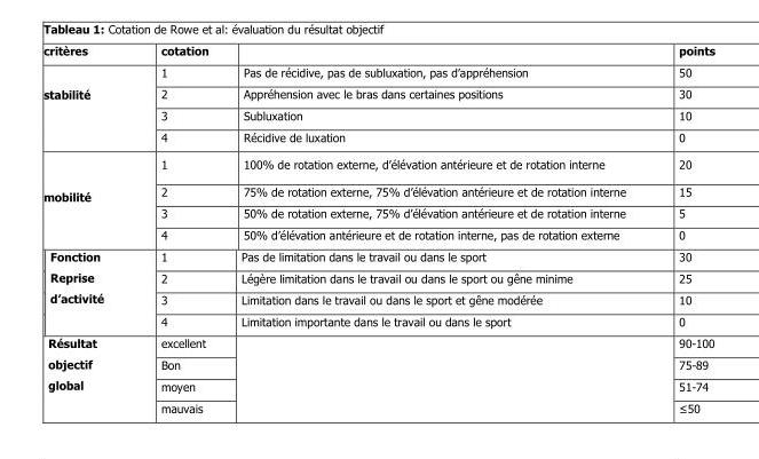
<table><thead><tr><td>critères</td><td>cotation</td><td></td><td>points</td></tr></thead><tbody><tr><td rowspan="4">stabilité</td><td>1</td><td>Pas de récidive, pas de subluxation, pas d’appréhension</td><td>50</td></tr><tr><td>2</td><td>Appréhension avec le bras dans certaines positions</td><td>30</td></tr><tr><td>3</td><td>Subluxation</td><td>10</td></tr><tr><td>4</td><td>Récidive de luxation</td><td>0</td></tr><tr><td rowspan="4">mobilité</td><td>1</td><td>100% de rotation externe, d’élévation antérieure et de rotation interne</td><td>20</td></tr><tr><td>2</td><td>75% de rotation externe, 75% d’élévation antérieure et de rotation interne</td><td>15</td></tr><tr><td>3</td><td>50% de rotation externe, 75% d’élévation antérieure et de rotation interne</td><td>5</td></tr><tr><td>4</td><td>50% d’élévation antérieure et de rotation interne, pas de rotation externe</td><td>0</td></tr><tr><td rowspan="4">Fonction Reprise d’activité</td><td>1</td><td>Pas de limitation dans le travail ou dans le sport</td><td>30</td></tr><tr><td>2</td><td>Légère limitation dans le travail ou dans le sport ou gêne minime</td><td>25</td></tr><tr><td>3</td><td>Limitation dans le travail ou dans le sport et gêne modérée</td><td>10</td></tr><tr><td>4</td><td>Limitation importante dans le travail ou dans le sport</td><td>0</td></tr><tr><td rowspan="4">Résultat objectif global</td><td>excellent</td><td rowspan="4"></td><td>90-100</td></tr><tr><td>Bon</td><td>75-89</td></tr><tr><td>moyen</td><td>51-74</td></tr><tr><td>mauvais</td><td>≤50</td></tr></tbody></table>